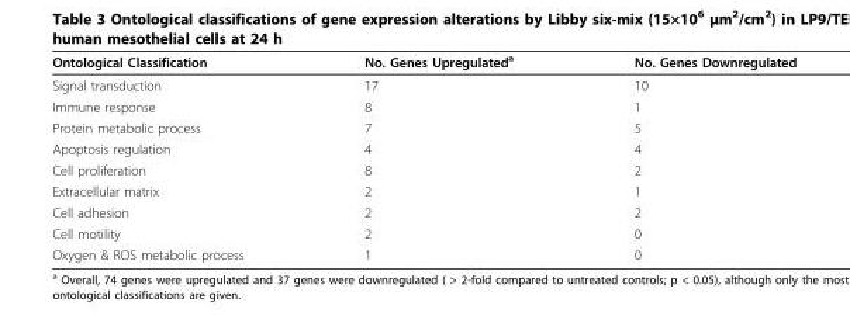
<table><thead><tr><td>Ontological Classification</td><td>No. Genes Upregulated<sup>a</sup></td><td>No. Genes Downregulated</td></tr></thead><tbody><tr><td>Signal transduction</td><td>17</td><td>10</td></tr><tr><td>Immune response</td><td>8</td><td>1</td></tr><tr><td>Protein metabolic process</td><td>7</td><td>5</td></tr><tr><td>Apoptosis regulation</td><td>4</td><td>4</td></tr><tr><td>Cell proliferation</td><td>8</td><td>2</td></tr><tr><td>Extracellular matrix</td><td>2</td><td>1</td></tr><tr><td>Cell adhesion</td><td>2</td><td>2</td></tr><tr><td>Cell motility</td><td>2</td><td>0</td></tr><tr><td>Oxygen &amp; ROS metabolic process</td><td>1</td><td>0</td></tr></tbody></table>